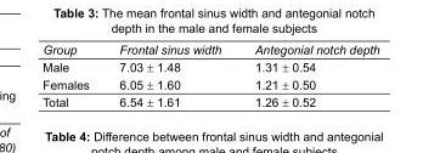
<table><tbody><tr><td>Group</td><td>Frontal sinus width</td><td>Antegonial notch depth</td></tr><tr><td>Male</td><td>7.03 ± 1.48</td><td>1.31 ± 0.54</td></tr><tr><td>Females</td><td>6.05 ± 1.60</td><td>1.21 ± 0.50</td></tr><tr><td>Total</td><td>6.54 ± 1.61</td><td>1.26 ± 0.52</td></tr></tbody></table>